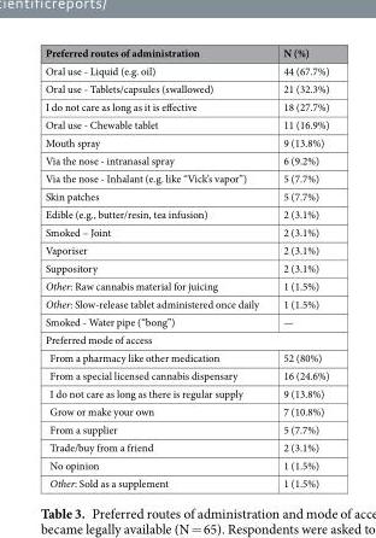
<table><thead><tr><td>Preferred routes of administration</td><td>N (%)</td></tr></thead><tbody><tr><td>Oral use - Liquid (e.g. oil)</td><td>44 (67.7%)</td></tr><tr><td>Oral use - Tablets/capsules (swallowed)</td><td>21 (32.3%)</td></tr><tr><td>I do not care as long as it is effective</td><td>18 (27.7%)</td></tr><tr><td>Oral use - Chewable tablet</td><td>11 (16.9%)</td></tr><tr><td>Mouth spray</td><td>9 (13.8%)</td></tr><tr><td>Via the nose - intranasal spray</td><td>6 (9.2%)</td></tr><tr><td>Via the nose - Inhalant (e.g. like “Vick’s vapor”)</td><td>5 (7.7%)</td></tr><tr><td>Skin patches</td><td>5 (7.7%)</td></tr><tr><td>Edible (e.g., butter/resin, tea infusion)</td><td>2 (3.1%)</td></tr><tr><td>Smoked – Joint</td><td>2 (3.1%)</td></tr><tr><td>Vaporiser</td><td>2 (3.1%)</td></tr><tr><td>Suppository</td><td>2 (3.1%)</td></tr><tr><td>Other: Raw cannabis material for juicing</td><td>1 (1.5%)</td></tr><tr><td>Other: Slow-release tablet administered once daily</td><td>1 (1.5%)</td></tr><tr><td>Smoked - Water pipe (“bong”)</td><td>—</td></tr><tr><td colspan="2">Preferred mode of access</td></tr><tr><td>From a pharmacy like other medication</td><td>52 (80%)</td></tr><tr><td>From a special licensed cannabis dispensary</td><td>16 (24.6%)</td></tr><tr><td>I do not care as long as there is regular supply</td><td>9 (13.8%)</td></tr><tr><td>Grow or make your own</td><td>7 (10.8%)</td></tr><tr><td>From a supplier</td><td>5 (7.7%)</td></tr><tr><td>Trade/buy from a friend</td><td>2 (3.1%)</td></tr><tr><td>No opinion</td><td>1 (1.5%)</td></tr><tr><td>Other: Sold as a supplement</td><td>1 (1.5%)</td></tr></tbody></table>